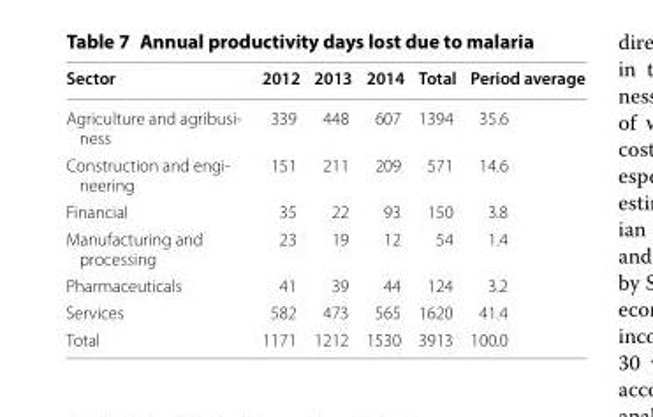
<table><thead><tr><td>Sector</td><td>2012</td><td>2013</td><td>2014</td><td>Total</td><td>Period average</td></tr></thead><tbody><tr><td>Agriculture and agribusi‑ ness</td><td>339</td><td>448</td><td>607</td><td>1394</td><td>35.6</td></tr><tr><td>Construction and engi‑ neering</td><td>151</td><td>211</td><td>209</td><td>571</td><td>14.6</td></tr><tr><td>Financial</td><td>35</td><td>22</td><td>93</td><td>150</td><td>3.8</td></tr><tr><td>Manufacturing and processing</td><td>23</td><td>19</td><td>12</td><td>54</td><td>1.4</td></tr><tr><td>Pharmaceuticals</td><td>41</td><td>39</td><td>44</td><td>124</td><td>3.2</td></tr><tr><td>Services</td><td>582</td><td>473</td><td>565</td><td>1620</td><td>41.4</td></tr><tr><td>Total</td><td>1171</td><td>1212</td><td>1530</td><td>3913</td><td>100.0</td></tr></tbody></table>